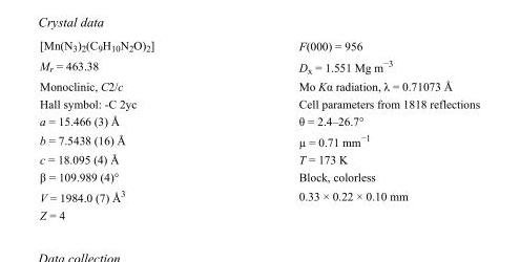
<table><tbody><tr><td>[Mn(N<sub>3</sub>)<sub>2</sub>(C<sub>9</sub>H<sub>10</sub>N<sub>2</sub>O)<sub>2</sub>]</td><td>F(000) = 956</td></tr><tr><td>M<sub>r</sub> = 463.38</td><td>D<sub>x</sub> = 1.551 Mg m<sup>−3</sup></td></tr><tr><td>Monoclinic, C2/c</td><td>Mo Kα radiation, λ = 0.71073 Å</td></tr><tr><td>Hall symbol: -C 2yc</td><td>Cell parameters from 1818 reflections</td></tr><tr><td>a = 15.466 (3) Å</td><td>θ = 2.4–26.7°</td></tr><tr><td>b = 7.5438 (16) Å</td><td>µ = 0.71 mm<sup>−1</sup></td></tr><tr><td>c = 18.095 (4) Å</td><td>T = 173 K</td></tr><tr><td>β = 109.989 (4)°</td><td>Block, colorless</td></tr><tr><td>V = 1984.0 (7) Å<sup>3</sup></td><td>0.33 × 0.22 × 0.10 mm</td></tr><tr><td>Z = 4</td><td></td></tr></tbody></table>